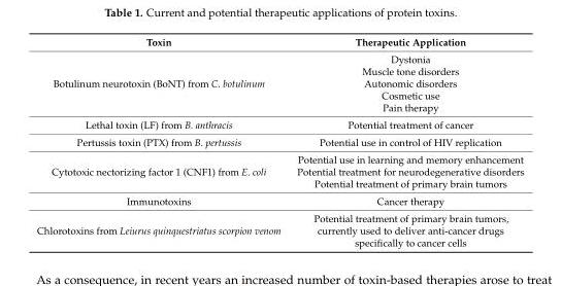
<table><thead><tr><td>Toxin</td><td>Therapeutic Application</td></tr></thead><tbody><tr><td>Botulinum neurotoxin (BoNT) from C. botulinum</td><td>Dystonia Muscle tone disorders Autonomic disorders Cosmetic use Pain therapy</td></tr><tr><td>Lethal toxin (LF) from B. anthracis</td><td>Potential treatment of cancer</td></tr><tr><td>Pertussis toxin (PTX) from B. pertussis</td><td>Potential use in control of HIV replication</td></tr><tr><td>Cytotoxic nectorizing factor 1 (CNF1) from E. coli</td><td>Potential use in learning and memory enhancement Potential treatment for neurodegenerative disorders Potential treatment of primary brain tumors</td></tr><tr><td>Immunotoxins</td><td>Cancer therapy</td></tr><tr><td>Chlorotoxins from Leiurus quinquestriatus scorpion venom</td><td>Potential treatment of primary brain tumors, currently used to deliver anti-cancer drugs specifically to cancer cells</td></tr></tbody></table>